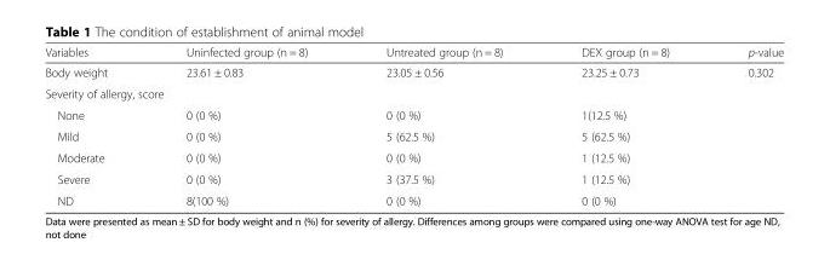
<table><thead><tr><td>Variables</td><td>Uninfected group (n = 8)</td><td>Untreated group (n = 8)</td><td>DEX group (n = 8)</td><td>p-value</td></tr></thead><tbody><tr><td>Body weight</td><td>23.61 ± 0.83</td><td>23.05 ± 0.56</td><td>23.25 ± 0.73</td><td>0.302</td></tr><tr><td colspan="5">Severity of allergy, score</td></tr><tr><td>None</td><td>0 (0 %)</td><td>0 (0 %)</td><td>1(12.5 %)</td><td></td></tr><tr><td>Mild</td><td>0 (0 %)</td><td>5 (62.5 %)</td><td>5 (62.5 %)</td><td></td></tr><tr><td>Moderate</td><td>0 (0 %)</td><td>0 (0 %)</td><td>1 (12.5 %)</td><td></td></tr><tr><td>Severe</td><td>0 (0 %)</td><td>3 (37.5 %)</td><td>1 (12.5 %)</td><td></td></tr><tr><td>ND</td><td>8(100 %)</td><td>0 (0 %)</td><td>0 (0 %)</td><td></td></tr></tbody></table>